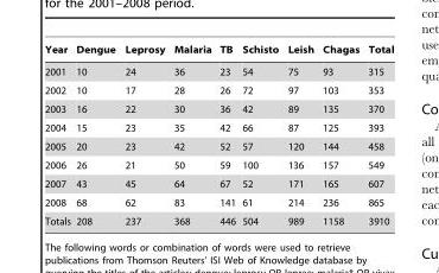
<table><thead><tr><td>Year</td><td>Dengue</td><td>Leprosy</td><td>Malaria</td><td>TB</td><td>Schisto</td><td>Leish</td><td>Chagas</td><td>Total</td></tr></thead><tbody><tr><td>2001</td><td>10</td><td>24</td><td>36</td><td>23</td><td>54</td><td>75</td><td>93</td><td>315</td></tr><tr><td>2002</td><td>10</td><td>17</td><td>28</td><td>26</td><td>72</td><td>97</td><td>103</td><td>353</td></tr><tr><td>2003</td><td>16</td><td>22</td><td>30</td><td>36</td><td>42</td><td>89</td><td>135</td><td>370</td></tr><tr><td>2004</td><td>15</td><td>23</td><td>35</td><td>42</td><td>66</td><td>87</td><td>125</td><td>393</td></tr><tr><td>2005</td><td>20</td><td>23</td><td>42</td><td>52</td><td>57</td><td>120</td><td>144</td><td>458</td></tr><tr><td>2006</td><td>26</td><td>21</td><td>50</td><td>59</td><td>100</td><td>136</td><td>157</td><td>549</td></tr><tr><td>2007</td><td>43</td><td>45</td><td>64</td><td>67</td><td>52</td><td>171</td><td>165</td><td>607</td></tr><tr><td>2008</td><td>68</td><td>62</td><td>83</td><td>141</td><td>61</td><td>214</td><td>236</td><td>865</td></tr><tr><td>Totals</td><td>208</td><td>237</td><td>368</td><td>446</td><td>504</td><td>989</td><td>1158</td><td>3910</td></tr></tbody></table>